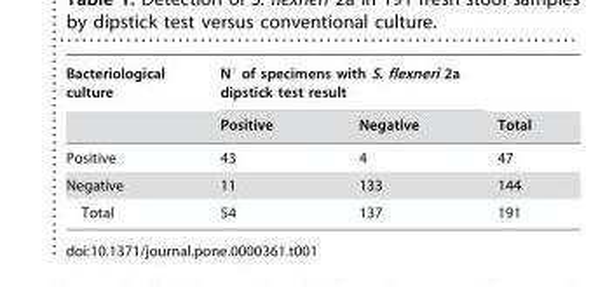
<table><thead><tr><td rowspan="2">Bacteriological culture</td><td colspan="2">N° of specimens with S. flexneri 2a dipstick test result</td><td rowspan="2">Total</td></tr><tr><td>Positive</td><td>Negative</td></tr></thead><tbody><tr><td>Positive</td><td>43</td><td>4</td><td>47</td></tr><tr><td>Negative</td><td>11</td><td>133</td><td>144</td></tr><tr><td>Total</td><td>54</td><td>137</td><td>191</td></tr></tbody></table>